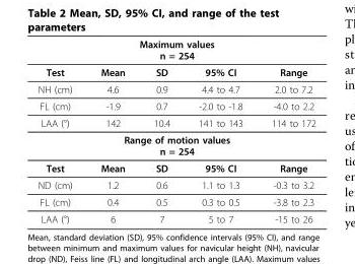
<table><thead><tr><td colspan="5">Maximum values n = 254</td></tr><tr><td>Test</td><td>Mean</td><td>SD</td><td>95% CI</td><td>Range</td></tr></thead><tbody><tr><td>NH (cm)</td><td>4.6</td><td>0.9</td><td>4.4 to 4.7</td><td>2.0 to 7.2</td></tr><tr><td>FL (cm)</td><td>-1.9</td><td>0.7</td><td>-2.0 to -1.8</td><td>-4.0 to 2.2</td></tr><tr><td>LAA (°)</td><td>142</td><td>10.4</td><td>141 to 143</td><td>114 to 172</td></tr><tr><td colspan="5">Range of motion values n = 254</td></tr><tr><td>Test</td><td>Mean</td><td>SD</td><td>95% CI</td><td>Range</td></tr><tr><td>ND (cm)</td><td>1.2</td><td>0.6</td><td>1.1 to 1.3</td><td>-0.3 to 3.2</td></tr><tr><td>FL (cm)</td><td>0.4</td><td>0.5</td><td>0.3 to 0.5</td><td>-3.8 to 2.3</td></tr><tr><td>LAA (°)</td><td>6</td><td>7</td><td>5 to 7</td><td>-15 to 26</td></tr></tbody></table>